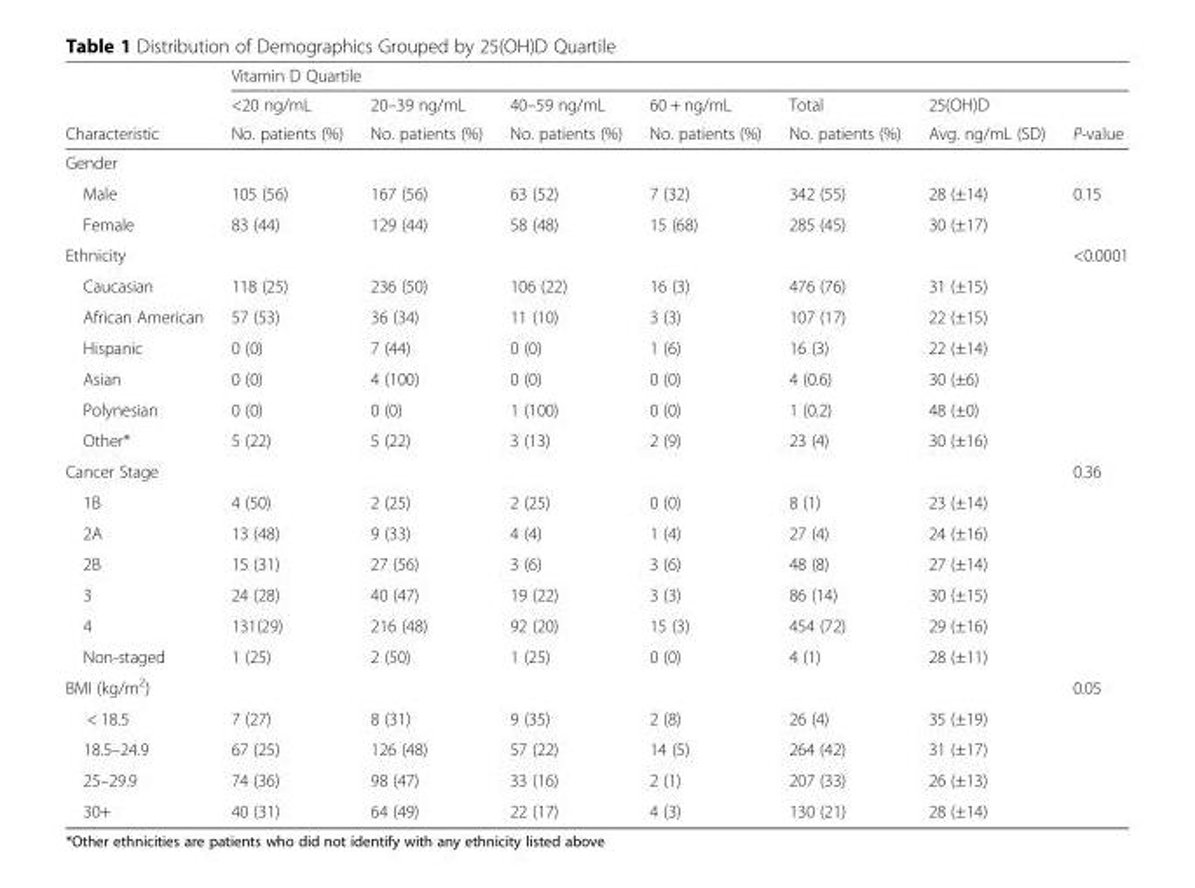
<table><thead><tr><td rowspan="3">Characteristic</td><td colspan="7">Vitamin D Quartile</td></tr><tr><td rowspan="2">&lt;20 ng/mL No. patients (%)</td><td rowspan="2">20–39 ng/mL No. patients (%)</td><td rowspan="2">40–59 ng/mL No. patients (%)</td><td rowspan="2">60 + ng/mL No. patients (%)</td><td rowspan="2">Total No. patients (%)</td><td rowspan="2">25(OH)D Avg. ng/mL (SD)</td><td rowspan="2">P-value</td></tr><tr></tr></thead><tbody><tr><td colspan="8">Gender</td></tr><tr><td>Male</td><td>105 (56)</td><td>167 (56)</td><td>63 (52)</td><td>7 (32)</td><td>342 (55)</td><td>28 (±14)</td><td rowspan="2">0.15</td></tr><tr><td>Female</td><td>83 (44)</td><td>129 (44)</td><td>58 (48)</td><td>15 (68)</td><td>285 (45)</td><td>30 (±17)</td></tr><tr><td colspan="7">Ethnicity</td><td rowspan="7">&lt;0.0001</td></tr><tr><td>Caucasian</td><td>118 (25)</td><td>236 (50)</td><td>106 (22)</td><td>16 (3)</td><td>476 (76)</td><td>31 (±15)</td></tr><tr><td>African American</td><td>57 (53)</td><td>36 (34)</td><td>11 (10)</td><td>3 (3)</td><td>107 (17)</td><td>22 (±15)</td></tr><tr><td>Hispanic</td><td>0 (0)</td><td>7 (44)</td><td>0 (0)</td><td>1 (6)</td><td>16 (3)</td><td>22 (±14)</td></tr><tr><td>Asian</td><td>0 (0)</td><td>4 (100)</td><td>0 (0)</td><td>0 (0)</td><td>4 (0.6)</td><td>30 (±6)</td></tr><tr><td>Polynesian</td><td>0 (0)</td><td>0 (0)</td><td>1 (100)</td><td>0 (0)</td><td>1 (0.2)</td><td>48 (±0)</td></tr><tr><td>Other*</td><td>5 (22)</td><td>5 (22)</td><td>3 (13)</td><td>2 (9)</td><td>23 (4)</td><td>30 (±16)</td></tr><tr><td colspan="7">Cancer Stage</td><td rowspan="7">0.36</td></tr><tr><td>1B</td><td>4 (50)</td><td>2 (25)</td><td>2 (25)</td><td>0 (0)</td><td>8 (1)</td><td>23 (±14)</td></tr><tr><td>2A</td><td>13 (48)</td><td>9 (33)</td><td>4 (4)</td><td>1 (4)</td><td>27 (4)</td><td>24 (±16)</td></tr><tr><td>2B</td><td>15 (31)</td><td>27 (56)</td><td>3 (6)</td><td>3 (6)</td><td>48 (8)</td><td>27 (±14)</td></tr><tr><td>3</td><td>24 (28)</td><td>40 (47)</td><td>19 (22)</td><td>3 (3)</td><td>86 (14)</td><td>30 (±15)</td></tr><tr><td>4</td><td>131(29)</td><td>216 (48)</td><td>92 (20)</td><td>15 (3)</td><td>454 (72)</td><td>29 (±16)</td></tr><tr><td>Non-staged</td><td>1 (25)</td><td>2 (50)</td><td>1 (25)</td><td>0 (0)</td><td>4 (1)</td><td>28 (±11)</td></tr><tr><td colspan="7">BMI (kg/m<sup>2</sup>)</td><td rowspan="5">0.05</td></tr><tr><td>&lt; 18.5</td><td>7 (27)</td><td>8 (31)</td><td>9 (35)</td><td>2 (8)</td><td>26 (4)</td><td>35 (±19)</td></tr><tr><td>18.5–24.9</td><td>67 (25)</td><td>126 (48)</td><td>57 (22)</td><td>14 (5)</td><td>264 (42)</td><td>31 (±17)</td></tr><tr><td>25–29.9</td><td>74 (36)</td><td>98 (47)</td><td>33 (16)</td><td>2 (1)</td><td>207 (33)</td><td>26 (±13)</td></tr><tr><td>30+</td><td>40 (31)</td><td>64 (49)</td><td>22 (17)</td><td>4 (3)</td><td>130 (21)</td><td>28 (±14)</td></tr></tbody></table>